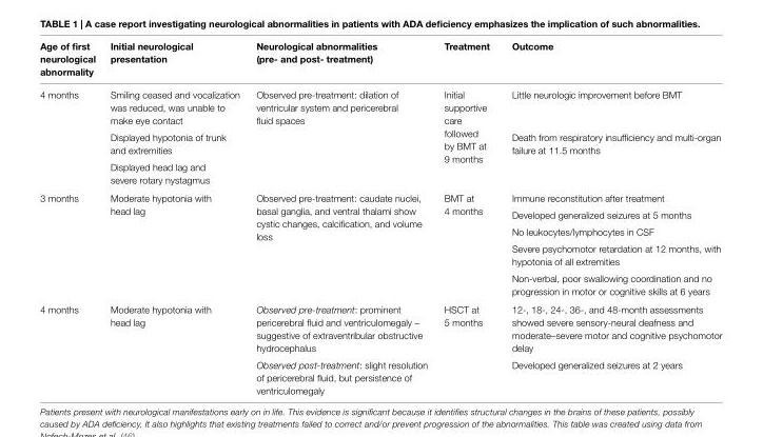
<table><thead><tr><td>Age of first neurological abnormality</td><td>initial neurological presentation</td><td>Neurological abnormalities (pre- and post- treatment)</td><td>Treatment</td><td>Outcome</td></tr></thead><tbody><tr><td rowspan="3">4 months</td><td>Smiling ceased and vocalization was reduced, was unable to make eye contact</td><td rowspan="3">Observed pre-treatment: dilation of ventricular system and pericerebral fluid spaces</td><td rowspan="3">Initial supportive care followed by BMT at 9 months</td><td>Little neurologic improvement before BMT</td></tr><tr><td>Displayed hypotonia of trunk and extremities</td><td rowspan="2">Death from respiratory insufficiency and multi-organ failure at 11.5 months</td></tr><tr><td>Displayed head lag and severe rotary nystagmus</td></tr><tr><td rowspan="5">3 months</td><td rowspan="5">Moderate hypotonia with head lag</td><td rowspan="5">Observed pre-treatment: caudate nuclei, basal ganglia, and ventral thalami show cystic changes, calcification, and volume loss</td><td rowspan="5">BMT at 4 months</td><td>Immune reconstitution after treatment</td></tr><tr><td>Developed generalized seizures at 5 months</td></tr><tr><td>No leukocytes/lymphocytes in CSF</td></tr><tr><td>Severe psychomotor retardation at 12 months, with hypotonia of all extremities</td></tr><tr><td>Non-verbal, poor swallowing coordination and no progression in motor or cognitive skills at 6 years</td></tr><tr><td rowspan="2">4 months</td><td rowspan="2">Moderate hypotonia with head lag</td><td>Observed pre-treatment: prominent pericerebral fluid and ventriculomegaly – suggestive of extraventribular obstructive hydrocephalus</td><td rowspan="2">HSCT at 5 months</td><td>12-, 18-, 24-, 36-, and 48-month assessments showed severe sensory-neural deafness and moderate–severe motor and cognitive psychomotor delay</td></tr><tr><td>Observed post-treatment: slight resolution of pericerebral fluid, but persistence of ventriculomegaly</td><td>Developed generalized seizures at 2 years</td></tr></tbody></table>